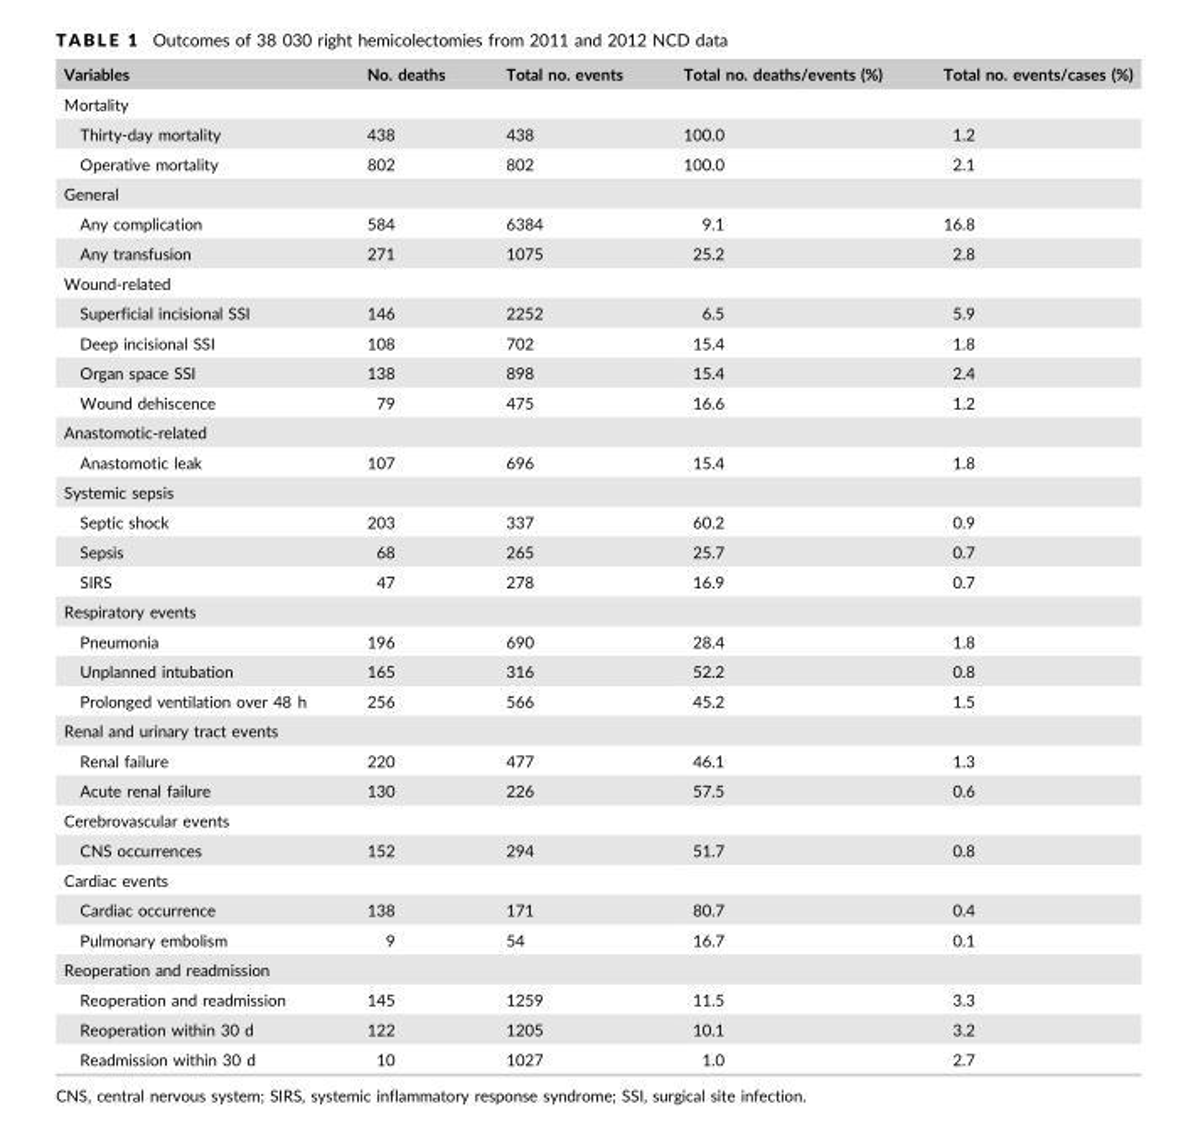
<table><thead><tr><td>Variables</td><td>No. deaths</td><td>Total no. events</td><td>Total no. deaths/events (%)</td><td>Total no. events/cases (%)</td></tr></thead><tbody><tr><td colspan="5">Mortality</td></tr><tr><td>Thirty-day mortality</td><td>438</td><td>438</td><td>100.0</td><td>1.2</td></tr><tr><td>Operative mortality</td><td>802</td><td>802</td><td>100.0</td><td>2.1</td></tr><tr><td colspan="5">General</td></tr><tr><td>Any complication</td><td>584</td><td>6384</td><td>9.1</td><td>16.8</td></tr><tr><td>Any transfusion</td><td>271</td><td>1075</td><td>25.2</td><td>2.8</td></tr><tr><td colspan="5">Wound-related</td></tr><tr><td>Superficial incisional SSI</td><td>146</td><td>2252</td><td>6.5</td><td>5.9</td></tr><tr><td>Deep incisional SSI</td><td>108</td><td>702</td><td>15.4</td><td>1.8</td></tr><tr><td>Organ space SSI</td><td>138</td><td>898</td><td>15.4</td><td>2.4</td></tr><tr><td>Wound dehiscence</td><td>79</td><td>475</td><td>16.6</td><td>1.2</td></tr><tr><td colspan="5">Anastomotic-related</td></tr><tr><td>Anastomotic leak</td><td>107</td><td>696</td><td>15.4</td><td>1.8</td></tr><tr><td colspan="5">Systemic sepsis</td></tr><tr><td>Septic shock</td><td>203</td><td>337</td><td>60.2</td><td>0.9</td></tr><tr><td>Sepsis</td><td>68</td><td>265</td><td>25.7</td><td>0.7</td></tr><tr><td>SIRS</td><td>47</td><td>278</td><td>16.9</td><td>0.7</td></tr><tr><td colspan="5">Respiratory events</td></tr><tr><td>Pneumonia</td><td>196</td><td>690</td><td>28.4</td><td>1.8</td></tr><tr><td>Unplanned intubation</td><td>165</td><td>316</td><td>52.2</td><td>0.8</td></tr><tr><td>Prolonged ventilation over 48 h</td><td>256</td><td>566</td><td>45.2</td><td>1.5</td></tr><tr><td colspan="5">Renal and urinary tract events</td></tr><tr><td>Renal failure</td><td>220</td><td>477</td><td>46.1</td><td>1.3</td></tr><tr><td>Acute renal failure</td><td>130</td><td>226</td><td>57.5</td><td>0.6</td></tr><tr><td colspan="5">Cerebrovascular events</td></tr><tr><td>CNS occurrences</td><td>152</td><td>294</td><td>51.7</td><td>0.8</td></tr><tr><td colspan="5">Cardiac events</td></tr><tr><td>Cardiac occurrence</td><td>138</td><td>171</td><td>80.7</td><td>0.4</td></tr><tr><td>Pulmonary embolism</td><td>9</td><td>54</td><td>16.7</td><td>0.1</td></tr><tr><td colspan="5">Reoperation and readmission</td></tr><tr><td>Reoperation and readmission</td><td>145</td><td>1259</td><td>11.5</td><td>3.3</td></tr><tr><td>Reoperation within 30 d</td><td>122</td><td>1205</td><td>10.1</td><td>3.2</td></tr><tr><td>Readmission within 30 d</td><td>10</td><td>1027</td><td>1.0</td><td>2.7</td></tr></tbody></table>